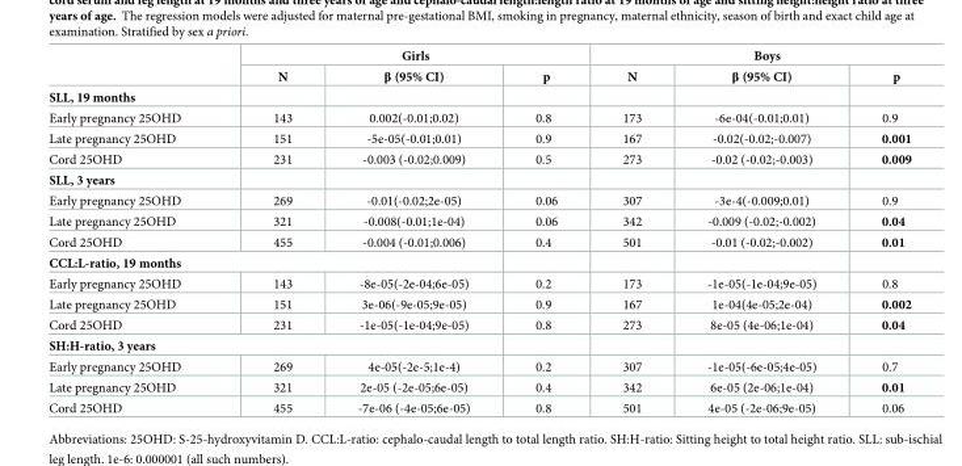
<table><thead><tr><td rowspan="2"></td><td colspan="3">Girls</td><td colspan="3">Boys</td></tr><tr><td>N</td><td>β (95% CI)</td><td>p</td><td>N</td><td>β (95% CI)</td><td>p</td></tr></thead><tbody><tr><td colspan="7">SLL, 19 months</td></tr><tr><td>Early pregnancy 25OHD</td><td>143</td><td>0.002(-0.01;0.02)</td><td>0.8</td><td>173</td><td>-6e-04(-0.01;0.01)</td><td>0.9</td></tr><tr><td>Late pregnancy 25OHD</td><td>151</td><td>-5e-05(-0.01;0.01)</td><td>0.9</td><td>167</td><td>-0.02(-0.02;-0.007)</td><td>0.001</td></tr><tr><td>Cord 25OHD</td><td>231</td><td>-0.003 (-0.02;0.009)</td><td>0.5</td><td>273</td><td>-0.02 (-0.02;-0.003)</td><td>0.009</td></tr><tr><td colspan="7">SLL, 3 years</td></tr><tr><td>Early pregnancy 25OHD</td><td>269</td><td>-0.01(-0.02;2e-05)</td><td>0.06</td><td>307</td><td>-3e-4(-0.009;0.01)</td><td>0.9</td></tr><tr><td>Late pregnancy 25OHD</td><td>321</td><td>-0.008(-0.01;1e-04)</td><td>0.06</td><td>342</td><td>-0.009 (-0.02;-0.002)</td><td>0.04</td></tr><tr><td>Cord 25OHD</td><td>455</td><td>-0.004 (-0.01;0.006)</td><td>0.4</td><td>501</td><td>-0.01 (-0.02;-0.002)</td><td>0.01</td></tr><tr><td colspan="7">CCL:L-ratio, 19 months</td></tr><tr><td>Early pregnancy 25OHD</td><td>143</td><td>-8e-05(-2e-04;6e-05)</td><td>0.2</td><td>173</td><td>-1e-05(-1e-04;9e-05)</td><td>0.8</td></tr><tr><td>Late pregnancy 25OHD</td><td>151</td><td>3e-06(-9e-05;9e-05)</td><td>0.9</td><td>167</td><td>1e-04(4e-05;2e-04)</td><td>0.002</td></tr><tr><td>Cord 25OHD</td><td>231</td><td>-1e-05(-1e-04;9e-05)</td><td>0.8</td><td>273</td><td>8e-05 (4e-06;1e-04)</td><td>0.04</td></tr><tr><td colspan="7">SH:H-ratio, 3 years</td></tr><tr><td>Early pregnancy 25OHD</td><td>269</td><td>4e-05(-2e-5;1e-4)</td><td>0.2</td><td>307</td><td>-1e-05(-6e-05;4e-05)</td><td>0.7</td></tr><tr><td>Late pregnancy 25OHD</td><td>321</td><td>2e-05 (-2e-05;6e-05)</td><td>0.4</td><td>342</td><td>6e-05 (2e-06;1e-04)</td><td>0.01</td></tr><tr><td>Cord 25OHD</td><td>455</td><td>-7e-06 (-4e-05;6e-05)</td><td>0.8</td><td>501</td><td>4e-05 (-2e-06;9e-05)</td><td>0.06</td></tr></tbody></table>